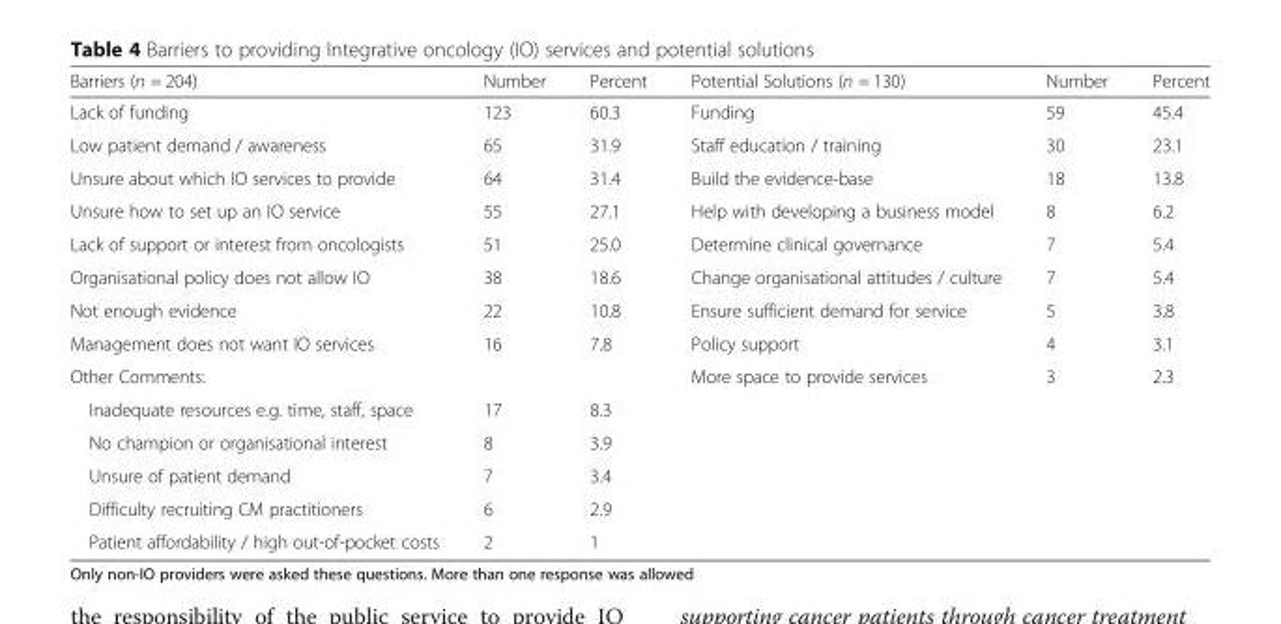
<table><thead><tr><td>Barriers (n = 204)</td><td>Number</td><td>Percent</td><td>Potential Solutions (n = 130)</td><td>Number</td><td>Percent</td></tr></thead><tbody><tr><td>Lack of funding</td><td>123</td><td>60.3</td><td>Funding</td><td>59</td><td>45.4</td></tr><tr><td>Low patient demand / awareness</td><td>65</td><td>31.9</td><td>Staff education / training</td><td>30</td><td>23.1</td></tr><tr><td>Unsure about which IO services to provide</td><td>64</td><td>31.4</td><td>Build the evidence-base</td><td>18</td><td>13.8</td></tr><tr><td>Unsure how to set up an IO service</td><td>55</td><td>27.1</td><td>Help with developing a business model</td><td>8</td><td>6.2</td></tr><tr><td>Lack of support or interest from oncologists</td><td>51</td><td>25.0</td><td>Determine clinical governance</td><td>7</td><td>5.4</td></tr><tr><td>Organisational policy does not allow IO</td><td>38</td><td>18.6</td><td>Change organisational attitudes / culture</td><td>7</td><td>5.4</td></tr><tr><td>Not enough evidence</td><td>22</td><td>10.8</td><td>Ensure sufficient demand for service</td><td>5</td><td>3.8</td></tr><tr><td>Management does not want IO services</td><td>16</td><td>7.8</td><td>Policy support</td><td>4</td><td>3.1</td></tr><tr><td>Other Comments:</td><td></td><td></td><td>More space to provide services</td><td>3</td><td>2.3</td></tr><tr><td>Inadequate resources e.g. time, staff, space</td><td>17</td><td>8.3</td><td></td><td></td><td></td></tr><tr><td>No champion or organisational interest</td><td>8</td><td>3.9</td><td></td><td></td><td></td></tr><tr><td>Unsure of patient demand</td><td>7</td><td>3.4</td><td></td><td></td><td></td></tr><tr><td>Difficulty recruiting CM practitioners</td><td>6</td><td>2.9</td><td></td><td></td><td></td></tr><tr><td>Patient affordability / high out-of-pocket costs</td><td>2</td><td>1</td><td></td><td></td><td></td></tr></tbody></table>